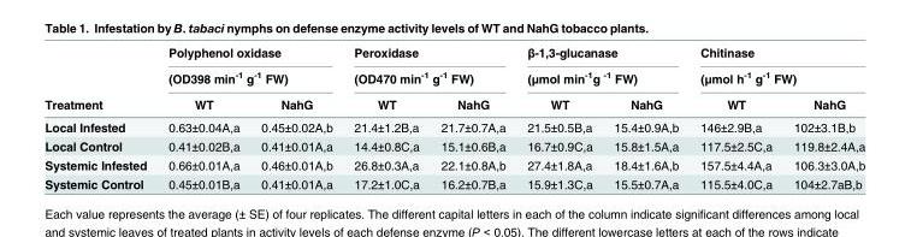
<table><thead><tr><td rowspan="3">Treatment</td><td rowspan="2" colspan="2">Polyphenol oxidase (OD398 min<sup>-1</sup> g<sup>-1</sup> FW)</td><td rowspan="2" colspan="2">Peroxidase (OD470 min<sup>-1</sup> g<sup>-1</sup> FW)</td><td rowspan="2" colspan="2">β-1,3-glucanase (μmol min<sup>-1</sup>g <sup>-1</sup> FW)</td><td rowspan="2" colspan="2">Chitinase (μmol h<sup>-1</sup> g<sup>-1</sup> FW)</td></tr><tr></tr><tr><td>WT</td><td>NahG</td><td>WT</td><td>NahG</td><td>WT</td><td>NahG</td><td>WT</td><td>NahG</td></tr></thead><tbody><tr><td>Local Infested</td><td>0.63±0.04A,a</td><td>0.45±0.02A,b</td><td>21.4±1.2B,a</td><td>21.7±0.7A,a</td><td>21.5±0.5B,a</td><td>15.4±0.9A,b</td><td>146±2.9B,a</td><td>102±3.1B,b</td></tr><tr><td>Local Control</td><td>0.41±0.02B,a</td><td>0.41±0.01A,a</td><td>14.4±0.8C,a</td><td>15.1±0.6B,a</td><td>16.7±0.9C,a</td><td>15.8±1.5A,a</td><td>117.5±2.5C,a</td><td>119.8±2.4A,a</td></tr><tr><td>Systemic Infested</td><td>0.66±0.01A,a</td><td>0.46±0.01A,b</td><td>26.8±0.3A,a</td><td>22.1±0.8A,b</td><td>27.4±1.8A,a</td><td>18.4±1.6A,b</td><td>157.5±4.4A,a</td><td>106.3±3.0A,b</td></tr><tr><td>Systemic Control</td><td>0.45±0.01B,a</td><td>0.41±0.01A,a</td><td>17.2±1.0C,a</td><td>16.2±0.7B,a</td><td>15.9±1.3C,a</td><td>15.5±0.7A,a</td><td>115.5±4.0C,a</td><td>104±2.7aB,b</td></tr></tbody></table>